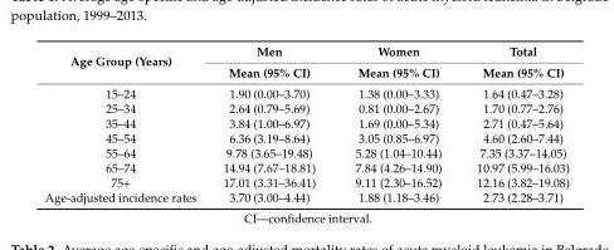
<table><thead><tr><td rowspan="2">Age Group (Years)</td><td rowspan="2">Men Mean (95% CI)</td><td rowspan="2">Women Mean (95% CI)</td><td rowspan="2">Total Mean (95% CI)</td></tr><tr></tr></thead><tbody><tr><td>15–24</td><td>1.90 (0.00–3.70)</td><td>1.38 (0.00–3.33)</td><td>1.64 (0.47–3.28)</td></tr><tr><td>25–34</td><td>2.64 (0.79–5.69)</td><td>0.81 (0.00–2.67)</td><td>1.70 (0.77–2.76)</td></tr><tr><td>35–44</td><td>3.84 (1.00–6.97)</td><td>1.69 (0.00–5.34)</td><td>2.71 (0.47–5.64)</td></tr><tr><td>45–54</td><td>6.36 (3.19–8.64)</td><td>3.05 (0.85–6.97)</td><td>4.60 (2.60–7.44)</td></tr><tr><td>55–64</td><td>9.78 (3.65–19.48)</td><td>5.28 (1.04–10.44)</td><td>7.35 (3.37–14.05)</td></tr><tr><td>65–74</td><td>14.94 (7.67–18.81)</td><td>7.84 (4.26–14.90)</td><td>10.97 (5.99–16.03)</td></tr><tr><td>75+</td><td>17.01 (3.31–36.41)</td><td>9.11 (2.30–16.52)</td><td>12.16 (3.82–19.08)</td></tr><tr><td>Age-adjusted incidence rates</td><td>3.70 (3.00–4.44)</td><td>1.88 (1.18–3.46)</td><td>2.73 (2.28–3.71)</td></tr></tbody></table>